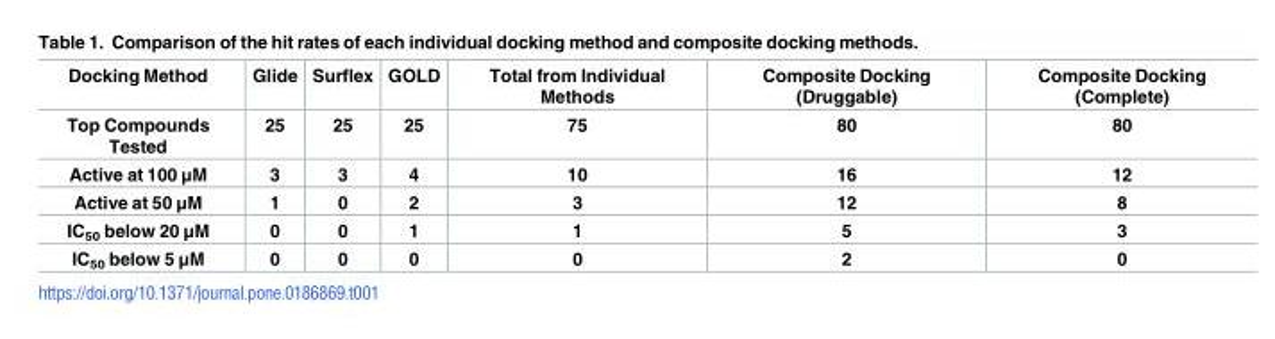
<table><thead><tr><td>Docking Method</td><td>Glide</td><td>Surflex</td><td>GOLD</td><td>Total from Individual Methods</td><td>Composite Docking (Druggable)</td><td>Composite Docking (Complete)</td></tr></thead><tbody><tr><td>Top Compounds Tested</td><td>25</td><td>25</td><td>25</td><td>75</td><td>80</td><td>80</td></tr><tr><td>Active at 100 μM</td><td>3</td><td>3</td><td>4</td><td>10</td><td>16</td><td>12</td></tr><tr><td>Active at 50 μM</td><td>1</td><td>0</td><td>2</td><td>3</td><td>12</td><td>8</td></tr><tr><td>IC<sub>50</sub> below 20 μM</td><td>0</td><td>0</td><td>1</td><td>1</td><td>5</td><td>3</td></tr><tr><td>IC<sub>50</sub> below 5 μM</td><td>0</td><td>0</td><td>0</td><td>0</td><td>2</td><td>0</td></tr></tbody></table>